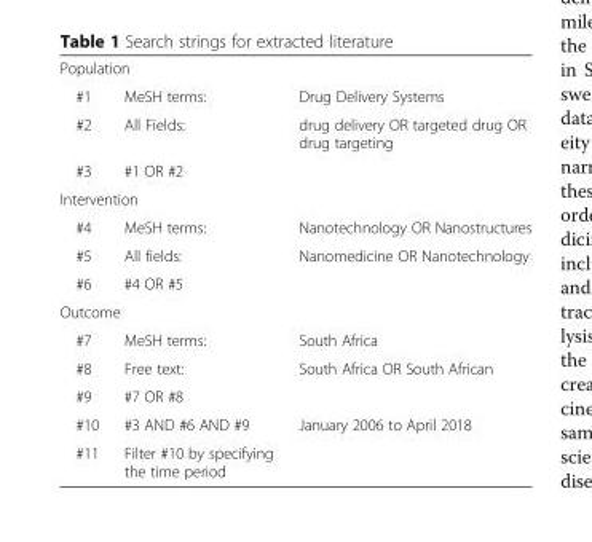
<table><tbody><tr><td colspan="3">Population</td></tr><tr><td>#1</td><td>MeSH terms:</td><td>Drug Delivery Systems</td></tr><tr><td>#2</td><td>All Fields:</td><td>drug delivery OR targeted drug OR drug targeting</td></tr><tr><td>#3</td><td colspan="2">#1 OR #2</td></tr><tr><td colspan="3">Intervention</td></tr><tr><td>#4</td><td>MeSH terms:</td><td>Nanotechnology OR Nanostructures</td></tr><tr><td>#5</td><td>All fields:</td><td>Nanomedicine OR Nanotechnology</td></tr><tr><td>#6</td><td colspan="2">#4 OR #5</td></tr><tr><td colspan="3">Outcome</td></tr><tr><td>#7</td><td>MeSH terms:</td><td>South Africa</td></tr><tr><td>#8</td><td>Free text:</td><td>South Africa OR South African</td></tr><tr><td>#9</td><td colspan="2">#7 OR #8</td></tr><tr><td>#10</td><td>#3 AND #6 AND #9</td><td rowspan="2">January 2006 to April 2018</td></tr><tr><td>#11</td><td>Filter #10 by specifying the time period</td></tr></tbody></table>